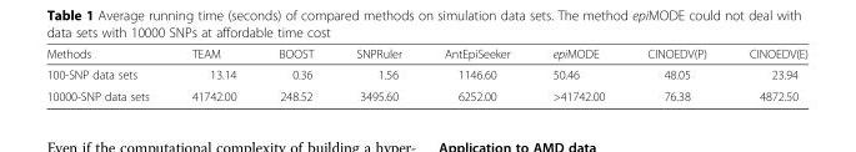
<table><thead><tr><td>Methods</td><td>TEAM</td><td>BOOST</td><td>SNPRuler</td><td>AntEpiSeeker</td><td>epiMODE</td><td>CINOEDV(P)</td><td>CINOEDV(E)</td></tr></thead><tbody><tr><td>100-SNP data sets</td><td>13.14</td><td>0.36</td><td>1.56</td><td>1146.60</td><td>50.46</td><td>48.05</td><td>23.94</td></tr><tr><td>10000-SNP data sets</td><td>41742.00</td><td>248.52</td><td>3495.60</td><td>6252.00</td><td>&gt;41742.00</td><td>76.38</td><td>4872.50</td></tr></tbody></table>